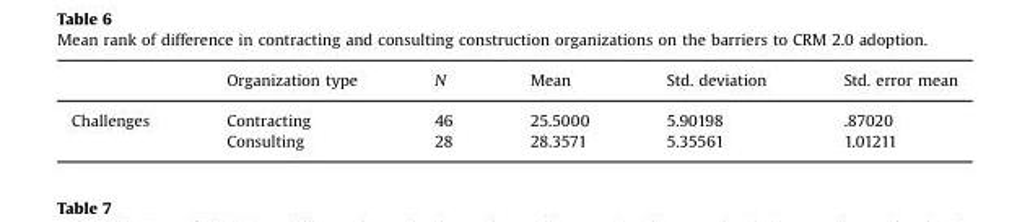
<table><thead><tr><td></td><td>Organization type</td><td>N</td><td>Mean</td><td>Std. deviation</td><td>Std. error mean</td></tr></thead><tbody><tr><td rowspan="2">Challenges</td><td>Contracting</td><td>46</td><td>25.5000</td><td>5.90198</td><td>.87020</td></tr><tr><td>Consulting</td><td>28</td><td>28.3571</td><td>5.35561</td><td>1.01211</td></tr></tbody></table>